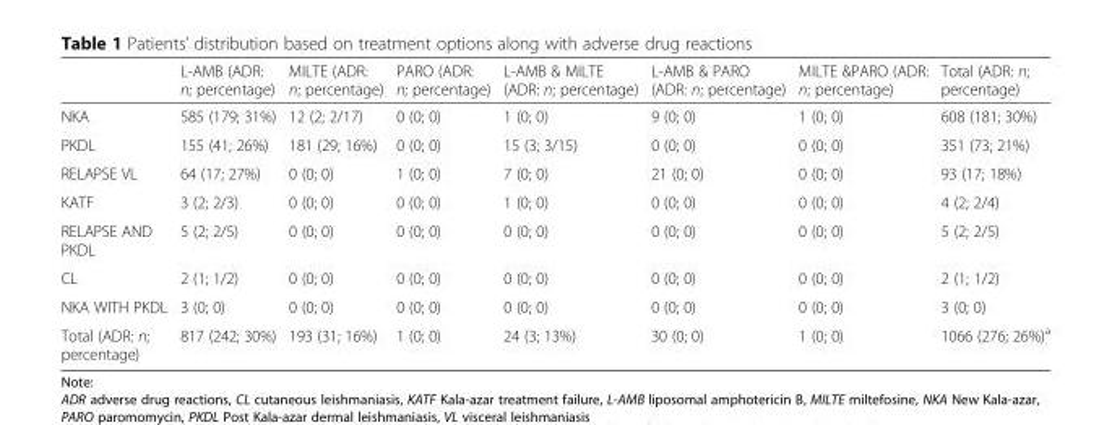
<table><thead><tr><td></td><td>L-AMB (ADR: n; percentage)</td><td>MILTE (ADR: n; percentage)</td><td>PARO (ADR: n; percentage)</td><td>L-AMB &amp; MILTE (ADR: n; percentage)</td><td>L-AMB &amp; PARO (ADR: n; percentage)</td><td>MILTE &amp;PARO (ADR: n; percentage)</td><td>Total (ADR: n; percentage)</td></tr></thead><tbody><tr><td>NKA</td><td>585 (179; 31%)</td><td>12 (2; 2/17)</td><td>0 (0; 0)</td><td>1 (0; 0)</td><td>9 (0; 0)</td><td>1 (0; 0)</td><td>608 (181; 30%)</td></tr><tr><td>PKDL</td><td>155 (41; 26%)</td><td>181 (29; 16%)</td><td>0 (0; 0)</td><td>15 (3; 3/15)</td><td>0 (0; 0)</td><td>0 (0; 0)</td><td>351 (73; 21%)</td></tr><tr><td>RELAPSE VL</td><td>64 (17; 27%)</td><td>0 (0; 0)</td><td>1 (0; 0)</td><td>7 (0; 0)</td><td>21 (0; 0)</td><td>0 (0; 0)</td><td>93 (17; 18%)</td></tr><tr><td>KATF</td><td>3 (2; 2/3)</td><td>0 (0; 0)</td><td>0 (0; 0)</td><td>1 (0; 0)</td><td>0 (0; 0)</td><td>0 (0; 0)</td><td>4 (2; 2/4)</td></tr><tr><td>RELAPSE AND PKDL</td><td>5 (2; 2/5)</td><td>0 (0; 0)</td><td>0 (0; 0)</td><td>0 (0; 0)</td><td>0 (0; 0)</td><td>0 (0; 0)</td><td>5 (2; 2/5)</td></tr><tr><td>CL</td><td>2 (1; 1/2)</td><td>0 (0; 0)</td><td>0 (0; 0)</td><td>0 (0; 0)</td><td>0 (0; 0)</td><td>0 (0; 0)</td><td>2 (1; 1/2)</td></tr><tr><td>NKA WITH PKDL</td><td>3 (0; 0)</td><td>0 (0; 0)</td><td>0 (0; 0)</td><td>0 (0; 0)</td><td>0 (0; 0)</td><td>0 (0; 0)</td><td>3 (0; 0)</td></tr><tr><td>Total (ADR: n; percentage)</td><td>817 (242; 30%)</td><td>193 (31; 16%)</td><td>1 (0; 0)</td><td>24 (3; 13%)</td><td>30 (0; 0)</td><td>1 (0; 0)</td><td>1066 (276; 26%)<sup>a</sup></td></tr></tbody></table>